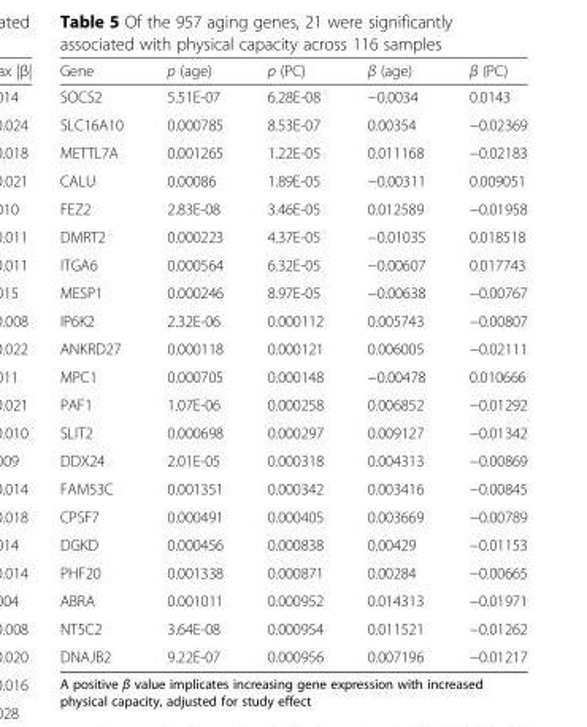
<table><thead><tr><td>Gene</td><td>p (age)</td><td>p (PC)</td><td>β (age)</td><td>β (PC)</td></tr></thead><tbody><tr><td>SOCS2</td><td>5.51E-07</td><td>6.28E-08</td><td>−0.0034</td><td>0.0143</td></tr><tr><td>SLC16A10</td><td>0.000785</td><td>8.53E-07</td><td>0.00354</td><td>−0.02369</td></tr><tr><td>METTL7A</td><td>0.001265</td><td>1.22E-05</td><td>0.011168</td><td>−0.02183</td></tr><tr><td>CALU</td><td>0.00086</td><td>1.89E-05</td><td>−0.00311</td><td>0.009051</td></tr><tr><td>FEZ2</td><td>2.83E-08</td><td>3.46E-05</td><td>0.012589</td><td>−0.01958</td></tr><tr><td>DMRT2</td><td>0.000223</td><td>4.37E-05</td><td>−0.01035</td><td>0.018518</td></tr><tr><td>ITGA6</td><td>0.000564</td><td>6.32E-05</td><td>−0.00607</td><td>0.017743</td></tr><tr><td>MESP1</td><td>0.000246</td><td>8.97E-05</td><td>−0.00638</td><td>−0.00767</td></tr><tr><td>IP6K2</td><td>2.32E-06</td><td>0.000112</td><td>0.005743</td><td>−0.00807</td></tr><tr><td>ANKRD27</td><td>0.000118</td><td>0.000121</td><td>0.006005</td><td>−0.02111</td></tr><tr><td>MPC1</td><td>0.000705</td><td>0.000148</td><td>−0.00478</td><td>0.010666</td></tr><tr><td>PAF1</td><td>1.07E-06</td><td>0.000258</td><td>0.006852</td><td>−0.01292</td></tr><tr><td>SLIT2</td><td>0.000698</td><td>0.000297</td><td>0.009127</td><td>−0.01342</td></tr><tr><td>DDX24</td><td>2.01E-05</td><td>0.000318</td><td>0.004313</td><td>−0.00869</td></tr><tr><td>FAM53C</td><td>0.001351</td><td>0.000342</td><td>0.003416</td><td>−0.00845</td></tr><tr><td>CPSF7</td><td>0.000491</td><td>0.000405</td><td>0.003669</td><td>−0.00789</td></tr><tr><td>DGKD</td><td>0.000456</td><td>0.000838</td><td>0.00429</td><td>−0.01153</td></tr><tr><td>PHF20</td><td>0.001338</td><td>0.000871</td><td>0.00284</td><td>−0.00665</td></tr><tr><td>ABRA</td><td>0.001011</td><td>0.000952</td><td>0.014313</td><td>−0.01971</td></tr><tr><td>NT5C2</td><td>3.64E-08</td><td>0.000954</td><td>0.011521</td><td>−0.01262</td></tr><tr><td>DNAJB2</td><td>9.22E-07</td><td>0.000956</td><td>0.007196</td><td>−0.01217</td></tr></tbody></table>